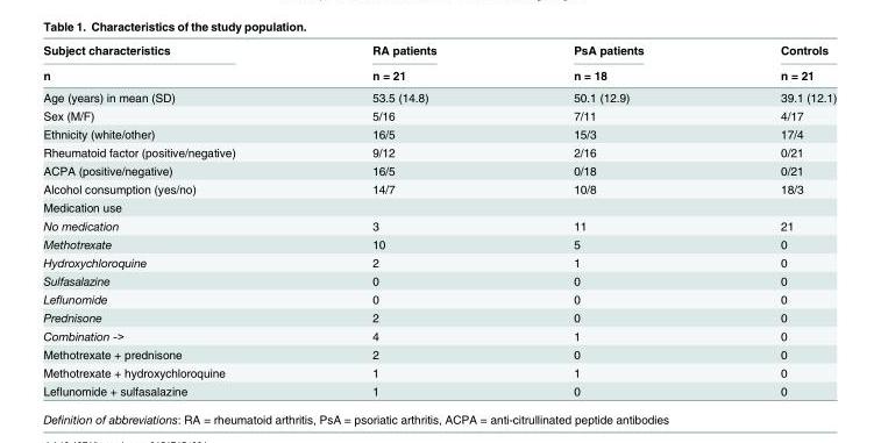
<table><thead><tr><td rowspan="2">Subject characteristics n</td><td rowspan="2">RA patients n = 21</td><td rowspan="2">PsA patients n = 18</td><td rowspan="2">Controls n = 21</td></tr><tr></tr></thead><tbody><tr><td>Age (years) in mean (SD)</td><td>53.5 (14.8)</td><td>50.1 (12.9)</td><td>39.1 (12.1)</td></tr><tr><td>Sex (M/F)</td><td>5/16</td><td>7/11</td><td>4/17</td></tr><tr><td>Ethnicity (white/other)</td><td>16/5</td><td>15/3</td><td>17/4</td></tr><tr><td>Rheumatoid factor (positive/negative)</td><td>9/12</td><td>2/16</td><td>0/21</td></tr><tr><td>ACPA (positive/negative)</td><td>16/5</td><td>0/18</td><td>0/21</td></tr><tr><td>Alcohol consumption (yes/no)</td><td>14/7</td><td>10/8</td><td>18/3</td></tr><tr><td colspan="4">Medication use</td></tr><tr><td>No medication</td><td>3</td><td>11</td><td>21</td></tr><tr><td>Methotrexate</td><td>10</td><td>5</td><td>0</td></tr><tr><td>Hydroxychloroquine</td><td>2</td><td>1</td><td>0</td></tr><tr><td>Sulfasalazine</td><td>0</td><td>0</td><td>0</td></tr><tr><td>Leflunomide</td><td>0</td><td>0</td><td>0</td></tr><tr><td>Prednisone</td><td>2</td><td>0</td><td>0</td></tr><tr><td>Combination -&gt;</td><td>4</td><td>1</td><td>0</td></tr><tr><td>Methotrexate + prednisone</td><td>2</td><td>0</td><td>0</td></tr><tr><td>Methotrexate + hydroxychloroquine</td><td>1</td><td>1</td><td>0</td></tr><tr><td>Leflunomide + sulfasalazine</td><td>1</td><td>0</td><td>0</td></tr></tbody></table>